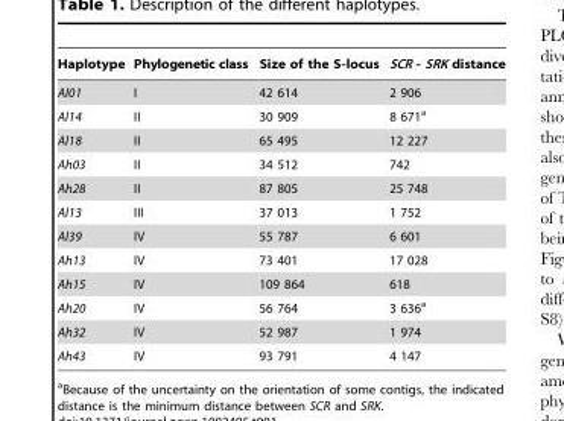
<table><thead><tr><td>Haplotype</td><td>Phylogenetic class</td><td>Size of the S-locus</td><td>SCR - SRK distance</td></tr></thead><tbody><tr><td>Al01</td><td>I</td><td>42 614</td><td>2 906</td></tr><tr><td>Al14</td><td>II</td><td>30 909</td><td>8 671<sup>a</sup></td></tr><tr><td>Al18</td><td>II</td><td>65 495</td><td>12 227</td></tr><tr><td>Ah03</td><td>II</td><td>34 512</td><td>742</td></tr><tr><td>Ah28</td><td>II</td><td>87 805</td><td>25 748</td></tr><tr><td>Al13</td><td>III</td><td>37 013</td><td>1 752</td></tr><tr><td>Al39</td><td>IV</td><td>55 787</td><td>6 601</td></tr><tr><td>Ah13</td><td>IV</td><td>73 401</td><td>17 028</td></tr><tr><td>Ah15</td><td>IV</td><td>109 864</td><td>618</td></tr><tr><td>Ah20</td><td>IV</td><td>56 764</td><td>3 636<sup>a</sup></td></tr><tr><td>Ah32</td><td>IV</td><td>52 987</td><td>1 974</td></tr><tr><td>Ah43</td><td>IV</td><td>93 791</td><td>4 147</td></tr></tbody></table>